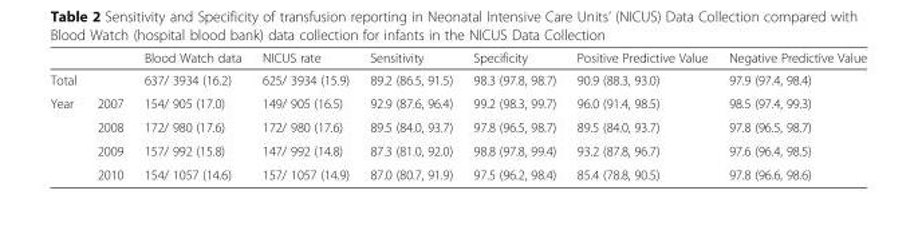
<table><thead><tr><td></td><td></td><td>Blood Watch data</td><td>NICUS rate</td><td>Sensitivity</td><td>Specificity</td><td>Positive Predictive Value</td><td>Negative Predictive Value</td></tr></thead><tbody><tr><td>Total</td><td></td><td>637/ 3934 (16.2)</td><td>625/ 3934 (15.9)</td><td>89.2 (86.5, 91.5)</td><td>98.3 (97.8, 98.7)</td><td>90.9 (88.3, 93.0)</td><td>97.9 (97.4, 98.4)</td></tr><tr><td rowspan="4">Year</td><td>2007</td><td>154/ 905 (17.0)</td><td>149/ 905 (16.5)</td><td>92.9 (87.6, 96.4)</td><td>99.2 (98.3, 99.7)</td><td>96.0 (91.4, 98.5)</td><td>98.5 (97.4, 99.3)</td></tr><tr><td>2008</td><td>172/ 980 (17.6)</td><td>172/ 980 (17.6)</td><td>89.5 (84.0, 93.7)</td><td>97.8 (96.5, 98.7)</td><td>89.5 (84.0, 93.7)</td><td>97.8 (96.5, 98.7)</td></tr><tr><td>2009</td><td>157/ 992 (15.8)</td><td>147/ 992 (14.8)</td><td>87.3 (81.0, 92.0)</td><td>98.8 (97.8, 99.4)</td><td>93.2 (87.8, 96.7)</td><td>97.6 (96.4, 98.5)</td></tr><tr><td>2010</td><td>154/ 1057 (14.6)</td><td>157/ 1057 (14.9)</td><td>87.0 (80.7, 91.9)</td><td>97.5 (96.2, 98.4)</td><td>85.4 (78.8, 90.5)</td><td>97.8 (96.6, 98.6)</td></tr></tbody></table>